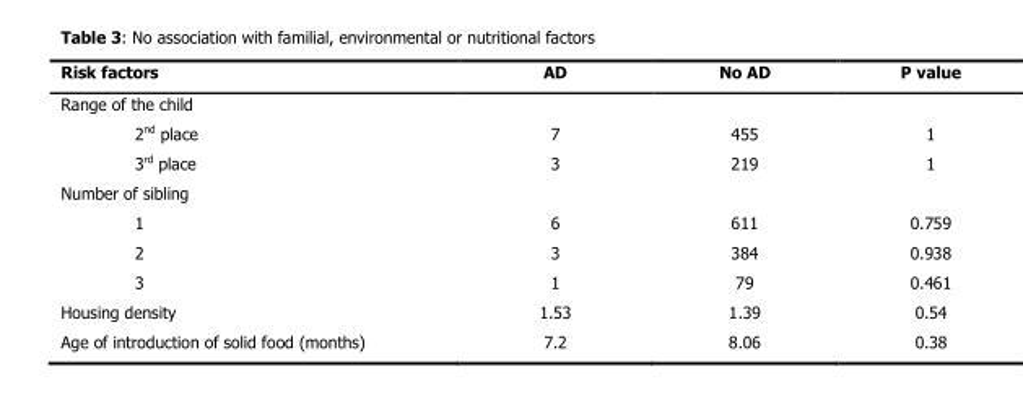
<table><thead><tr><td>Risk factors</td><td>AD</td><td>No AD</td><td>P value</td></tr></thead><tbody><tr><td colspan="4">Range of the child</td></tr><tr><td>2<sup>nd</sup> place</td><td>7</td><td>455</td><td>1</td></tr><tr><td>3<sup>rd</sup> place</td><td>3</td><td>219</td><td>1</td></tr><tr><td colspan="4">Number of sibling</td></tr><tr><td>1</td><td>6</td><td>611</td><td>0.759</td></tr><tr><td>2</td><td>3</td><td>384</td><td>0.938</td></tr><tr><td>3</td><td>1</td><td>79</td><td>0.461</td></tr><tr><td>Housing density</td><td>1.53</td><td>1.39</td><td>0.54</td></tr><tr><td>Age of introduction of solid food (months)</td><td>7.2</td><td>8.06</td><td>0.38</td></tr></tbody></table>